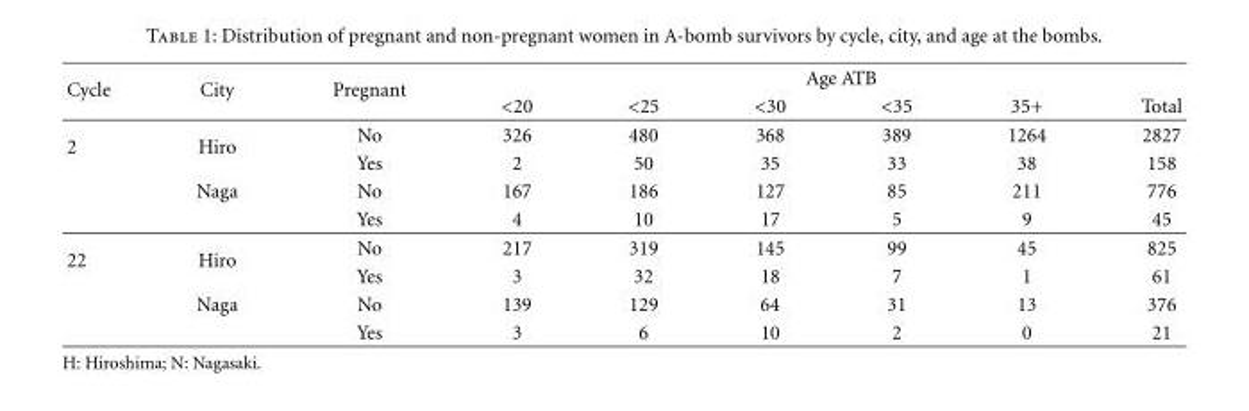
<table><thead><tr><td rowspan="2">Cycle</td><td rowspan="2">City</td><td rowspan="2">Pregnant</td><td colspan="6">Age ATB</td></tr><tr><td>&lt;20</td><td>&lt;25</td><td>&lt;30</td><td>&lt;35</td><td>35+</td><td>Total</td></tr></thead><tbody><tr><td rowspan="4">2</td><td rowspan="2">Hiro</td><td>No</td><td>326</td><td>480</td><td>368</td><td>389</td><td>1264</td><td>2827</td></tr><tr><td>Yes</td><td>2</td><td>50</td><td>35</td><td>33</td><td>38</td><td>158</td></tr><tr><td>Naga</td><td>No</td><td>167</td><td>186</td><td>127</td><td>85</td><td>211</td><td>776</td></tr><tr><td></td><td>Yes</td><td>4</td><td>10</td><td>17</td><td>5</td><td>9</td><td>45</td></tr><tr><td rowspan="4">22</td><td rowspan="2">Hiro</td><td>No</td><td>217</td><td>319</td><td>145</td><td>99</td><td>45</td><td>825</td></tr><tr><td>Yes</td><td>3</td><td>32</td><td>18</td><td>7</td><td>1</td><td>61</td></tr><tr><td>Naga</td><td>No</td><td>139</td><td>129</td><td>64</td><td>31</td><td>13</td><td>376</td></tr><tr><td></td><td>Yes</td><td>3</td><td>6</td><td>10</td><td>2</td><td>0</td><td>21</td></tr></tbody></table>